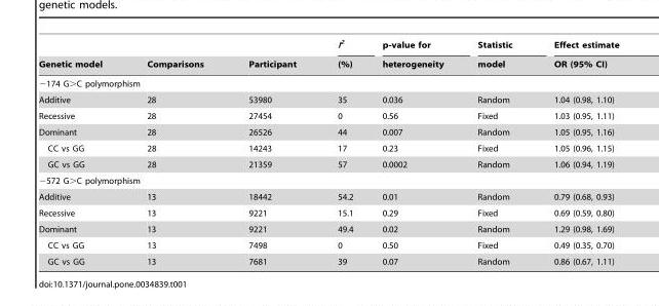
<table><thead><tr><td rowspan="2">Genetic model</td><td rowspan="2">Comparisons</td><td rowspan="2">Participant</td><td rowspan="2">I<sup>2</sup> (%)</td><td rowspan="2">p-value for heterogeneity</td><td rowspan="2">Statistic model</td><td rowspan="2">Effect estimate OR (95% CI)</td></tr><tr></tr></thead><tbody><tr><td colspan="7">−174 G&gt;C polymorphism</td></tr><tr><td>Additive</td><td>28</td><td>53980</td><td>35</td><td>0.036</td><td>Random</td><td>1.04 (0.98, 1.10)</td></tr><tr><td>Recessive</td><td>28</td><td>27454</td><td>0</td><td>0.56</td><td>Fixed</td><td>1.03 (0.95, 1.11)</td></tr><tr><td>Dominant</td><td>28</td><td>26526</td><td>44</td><td>0.007</td><td>Random</td><td>1.05 (0.95, 1.16)</td></tr><tr><td>CC vs GG</td><td>28</td><td>14243</td><td>17</td><td>0.23</td><td>Fixed</td><td>1.05 (0.96, 1.15)</td></tr><tr><td>GC vs GG</td><td>28</td><td>21359</td><td>57</td><td>0.0002</td><td>Random</td><td>1.06 (0.94, 1.19)</td></tr><tr><td colspan="7">−572 G&gt;C polymorphism</td></tr><tr><td>Additive</td><td>13</td><td>18442</td><td>54.2</td><td>0.01</td><td>Random</td><td>0.79 (0.68, 0.93)</td></tr><tr><td>Recessive</td><td>13</td><td>9221</td><td>15.1</td><td>0.29</td><td>Fixed</td><td>0.69 (0.59, 0.80)</td></tr><tr><td>Dominant</td><td>13</td><td>9221</td><td>49.4</td><td>0.02</td><td>Random</td><td>1.29 (0.98, 1.69)</td></tr><tr><td>CC vs GG</td><td>13</td><td>7498</td><td>0</td><td>0.50</td><td>Fixed</td><td>0.49 (0.35, 0.70)</td></tr><tr><td>GC vs GG</td><td>13</td><td>7681</td><td>39</td><td>0.07</td><td>Random</td><td>0.86 (0.67, 1.11)</td></tr></tbody></table>